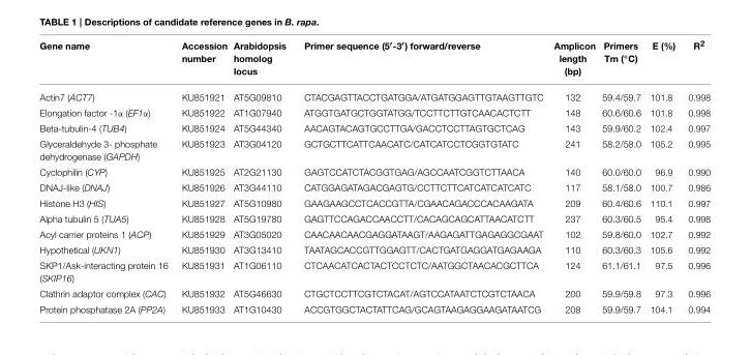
<table><thead><tr><td>Gene name</td><td>Accession number</td><td>Arabidopsis homolog locus</td><td>Primer sequence (5′-3′) forward/reverse</td><td>Amplicon length (bp)</td><td>Primers Tm (◦C)</td><td>E (%)</td><td>R<sup>2</sup></td></tr></thead><tbody><tr><td>Actin7 (ACT7)</td><td>KU851921</td><td>AT5G09810</td><td>CTACGAGTTACCTGATGGA/ATGATGGAGTTGTAAGTTGTC</td><td>132</td><td>59.4/59.7</td><td>101.8</td><td>0.998</td></tr><tr><td>Elongation factor -1α (EF1α)</td><td>KU851922</td><td>AT1G07940</td><td>ATGGTGATGCTGGTATGG/TCCTTCTTGTCAACACTCTT</td><td>148</td><td>60.6/60.6</td><td>101.8</td><td>0.998</td></tr><tr><td>Beta-tubulin-4 (TUB4)</td><td>KU851924</td><td>AT5G44340</td><td>AACAGTACAGTGCCTTGA/GACCTCCTTAGTGCTCAG</td><td>143</td><td>59.9/60.2</td><td>102.4</td><td>0.997</td></tr><tr><td>Glyceraldehyde 3- phosphate dehydrogenase (GAPDH)</td><td>KU851923</td><td>AT3G04120</td><td>GCTGCTTCATTCAACATC/CATCATCCTCGGTGTATC</td><td>241</td><td>58.2/58.0</td><td>105.2</td><td>0.995</td></tr><tr><td>Cyclophilin (CYP)</td><td>KU851925</td><td>AT2G21130</td><td>GAGTCCATCTACGGTGAG/AGCCAATCGGTCTTAACA</td><td>140</td><td>60.0/60.0</td><td>96.9</td><td>0.990</td></tr><tr><td>DNAJ-like (DNAJ)</td><td>KU851926</td><td>AT3G44110</td><td>CATGGAGATAGACGAGTG/CCTTCTTCATCATCATCATC</td><td>117</td><td>58.1/58.0</td><td>100.7</td><td>0.986</td></tr><tr><td>Histone H3 (HIS)</td><td>KU851927</td><td>AT5G10980</td><td>GAAGAAGCCTCACCGTTA/CGAACAGACCCACAAGATA</td><td>209</td><td>60.4/60.6</td><td>110.1</td><td>0.997</td></tr><tr><td>Alpha tubulin 5 (TUA5)</td><td>KU851928</td><td>AT5G19780</td><td>GAGTTCCAGACCAACCTT/CACAGCAGCATTAACATCTT</td><td>237</td><td>60.3/60.5</td><td>95.4</td><td>0.998</td></tr><tr><td>Acyl carrier proteins 1 (ACP)</td><td>KU851929</td><td>AT3G05020</td><td>CAACAACAACGAGGATAAGT/AAGAGATTGAGAGGCGAAT</td><td>102</td><td>59.8/60.0</td><td>102.7</td><td>0.992</td></tr><tr><td>Hypothetical (UKN1)</td><td>KU851930</td><td>AT3G13410</td><td>TAATAGCACCGTTGGAGTT/CACTGATGAGGATGAGAAGA</td><td>110</td><td>60.3/60.3</td><td>105.6</td><td>0.992</td></tr><tr><td>SKP1/Ask-interacting protein 16 (SKIP16)</td><td>KU851931</td><td>AT1G06110</td><td>CTCAACATCACTACTCCTCTC/AATGGCTAACACGCTTCA</td><td>124</td><td>61.1/61.1</td><td>97.5</td><td>0.996</td></tr><tr><td>Clathrin adaptor complex (CAC)</td><td>KU851932</td><td>AT5G46630</td><td>CTGCTCCTTCGTCTACAT/AGTCCATAATCTCGTCTAACA</td><td>200</td><td>59.9/59.8</td><td>97.3</td><td>0.996</td></tr><tr><td>Protein phosphatase 2A (PP2A)</td><td>KU851933</td><td>AT1G10430</td><td>ACCGTGGCTACTATTCAG/GCAGTAAGAGGAAGATAATCG</td><td>208</td><td>59.9/59.7</td><td>104.1</td><td>0.994</td></tr></tbody></table>